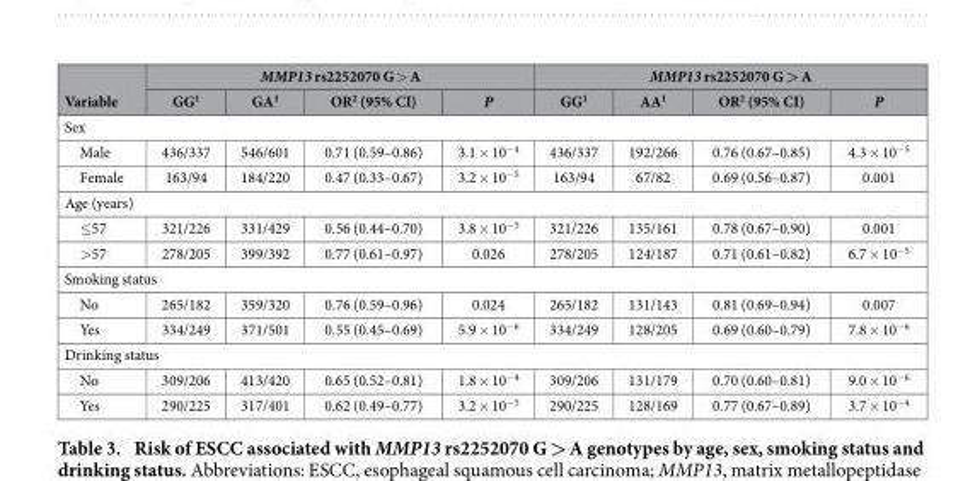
<table><thead><tr><td rowspan="2">Variable</td><td colspan="4">MMP13 rs2252070 G &gt; A</td><td colspan="4">MMP13 rs2252070 G &gt; A</td></tr><tr><td>GG<sup>1</sup></td><td>GA<sup>1</sup></td><td>OR<sup>2</sup> (95% CI)</td><td>P</td><td>GG<sup>1</sup></td><td>AA<sup>1</sup></td><td>OR<sup>2</sup> (95% CI)</td><td>P</td></tr></thead><tbody><tr><td colspan="9">Sex</td></tr><tr><td>Male</td><td>436/337</td><td>546/601</td><td>0.71 (0.59–0.86)</td><td>3.1 × 10<sup>−4</sup></td><td>436/337</td><td>192/266</td><td>0.76 (0.67–0.85)</td><td>4.3 × 10<sup>−5</sup></td></tr><tr><td>Female</td><td>163/94</td><td>184/220</td><td>0.47 (0.33–0.67)</td><td>3.2 × 10<sup>−5</sup></td><td>163/94</td><td>67/82</td><td>0.69 (0.56–0.87)</td><td>0.001</td></tr><tr><td colspan="9">Age (years)</td></tr><tr><td>≤ 57</td><td>321/226</td><td>331/429</td><td>0.56 (0.44–0.70)</td><td>3.8 × 10<sup>−5</sup></td><td>321/226</td><td>135/161</td><td>0.78 (0.67–0.90)</td><td>0.001</td></tr><tr><td>&gt; 57</td><td>278/205</td><td>399/392</td><td>0.77 (0.61–0.97)</td><td>0.026</td><td>278/205</td><td>124/187</td><td>0.71 (0.61–0.82)</td><td>6.7 × 10<sup>−5</sup></td></tr><tr><td colspan="9">Smoking status</td></tr><tr><td>No</td><td>265/182</td><td>359/320</td><td>0.76 (0.59–0.96)</td><td>0.024</td><td>265/182</td><td>131/143</td><td>0.81 (0.69–0.94)</td><td>0.007</td></tr><tr><td>Yes</td><td>334/249</td><td>371/501</td><td>0.55 (0.45–0.69)</td><td>5.9 × 10<sup>−6</sup></td><td>334/249</td><td>128/205</td><td>0.69 (0.60–0.79)</td><td>7.8 × 10<sup>−6</sup></td></tr><tr><td colspan="9">Drinking status</td></tr><tr><td>No</td><td>309/206</td><td>413/420</td><td>0.65 (0.52–0.81)</td><td>1.8 × 10<sup>−4</sup></td><td>309/206</td><td>131/179</td><td>0.70 (0.60–0.81)</td><td>9.0 × 10<sup>−6</sup></td></tr><tr><td>Yes</td><td>290/225</td><td>317/401</td><td>0.62 (0.49–0.77)</td><td>3.2 × 10<sup>−5</sup></td><td>290/225</td><td>128/169</td><td>0.77 (0.67–0.89)</td><td>3.7 × 10<sup>−4</sup></td></tr></tbody></table>